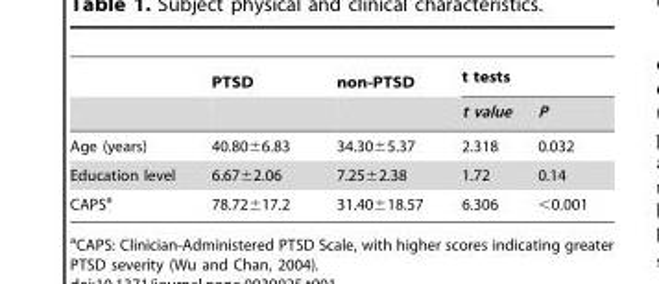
<table><thead><tr><td rowspan="2"></td><td rowspan="2">PTSD</td><td rowspan="2">non-PTSD</td><td colspan="2">t tests</td></tr><tr><td>t value</td><td>P</td></tr></thead><tbody><tr><td>Age (years)</td><td>40.80±6.83</td><td>34.30±5.37</td><td>2.318</td><td>0.032</td></tr><tr><td>Education level</td><td>6.67±2.06</td><td>7.25±2.38</td><td>1.72</td><td>0.14</td></tr><tr><td>CAPS<sup>a</sup></td><td>78.72±17.2</td><td>31.40±18.57</td><td>6.306</td><td>&lt;0.001</td></tr></tbody></table>